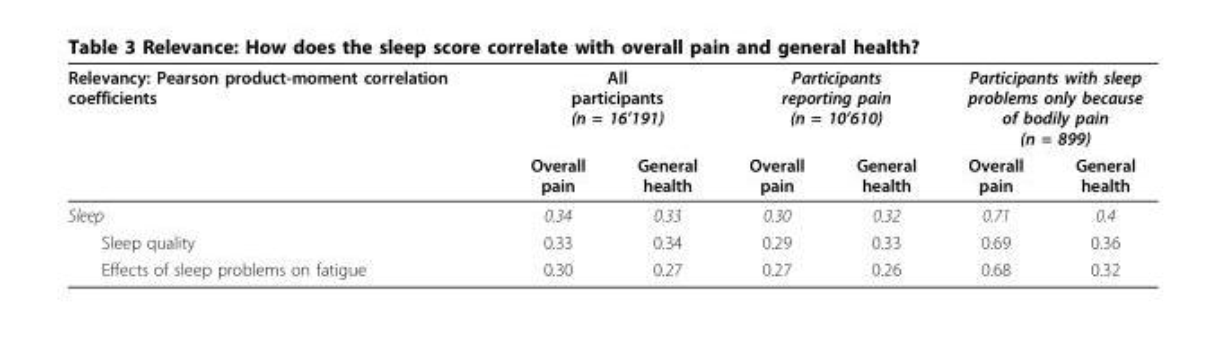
<table><thead><tr><td rowspan="2">Relevancy: Pearson product-moment correlation coefficients</td><td colspan="2">All participants (n = 16’191)</td><td colspan="2">Participants reporting pain (n = 10’610)</td><td colspan="2">Participants with sleep problems only because of bodily pain (n = 899)</td></tr><tr><td>Overall pain</td><td>General health</td><td>Overall pain</td><td>General health</td><td>Overall pain</td><td>General health</td></tr></thead><tbody><tr><td>Sleep</td><td>0.34</td><td>0.33</td><td>0.30</td><td>0.32</td><td>0.71</td><td>0.4</td></tr><tr><td>Sleep quality</td><td>0.33</td><td>0.34</td><td>0.29</td><td>0.33</td><td>0.69</td><td>0.36</td></tr><tr><td>Effects of sleep problems on fatigue</td><td>0.30</td><td>0.27</td><td>0.27</td><td>0.26</td><td>0.68</td><td>0.32</td></tr></tbody></table>